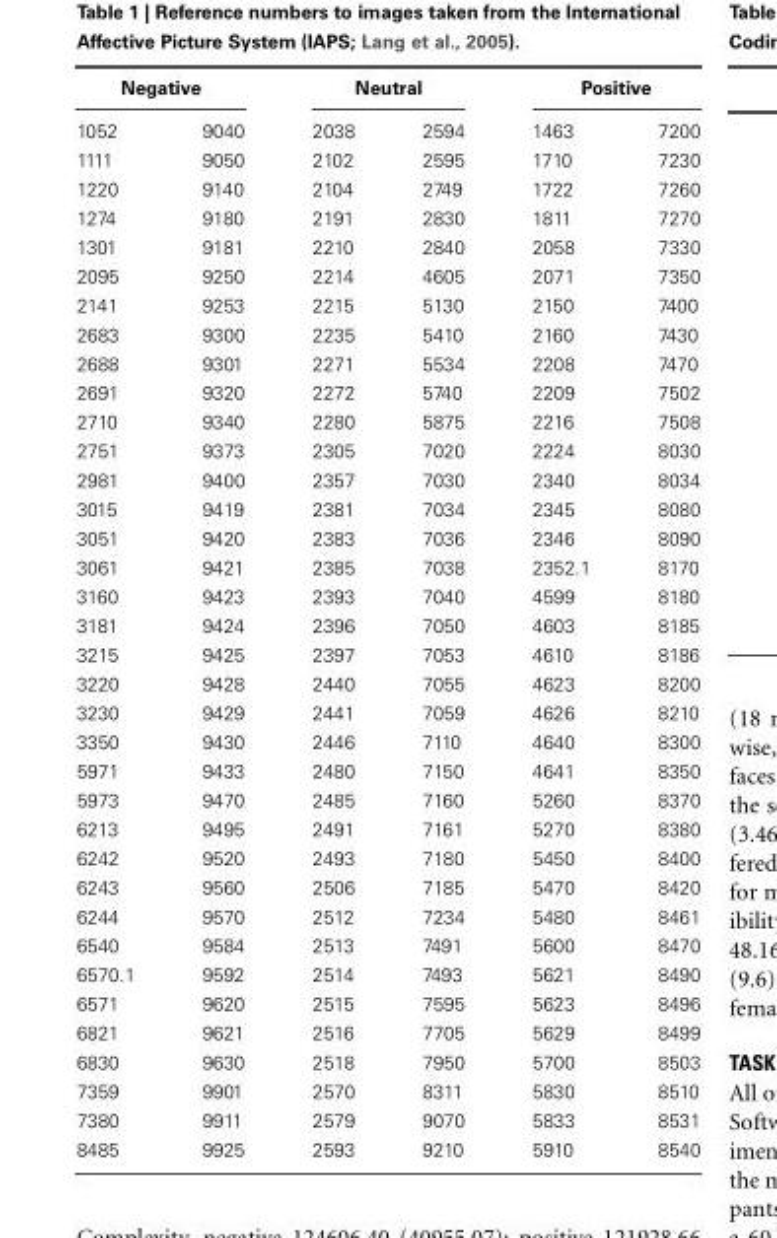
<table><thead><tr><td colspan="2">Negative</td><td colspan="2">Neutral</td><td colspan="2">Positive</td></tr><tr><td>1052</td><td>9040</td><td>2038</td><td>2594</td><td>1463</td><td>7200</td></tr></thead><tbody><tr><td>1111</td><td>9050</td><td>2102</td><td>2595</td><td>1710</td><td>7230</td></tr><tr><td>1220</td><td>9140</td><td>2104</td><td>2749</td><td>1722</td><td>7260</td></tr><tr><td>1274</td><td>9180</td><td>2191</td><td>2830</td><td>1811</td><td>7270</td></tr><tr><td>1301</td><td>9181</td><td>2210</td><td>2840</td><td>2058</td><td>7330</td></tr><tr><td>2095</td><td>9250</td><td>2214</td><td>4605</td><td>2071</td><td>7350</td></tr><tr><td>2141</td><td>9253</td><td>2215</td><td>5130</td><td>2150</td><td>7400</td></tr><tr><td>2683</td><td>9300</td><td>2235</td><td>5410</td><td>2160</td><td>7430</td></tr><tr><td>2688</td><td>9301</td><td>2271</td><td>5534</td><td>2208</td><td>7470</td></tr><tr><td>2691</td><td>9320</td><td>2272</td><td>5740</td><td>2209</td><td>7502</td></tr><tr><td>2710</td><td>9340</td><td>2280</td><td>5875</td><td>2216</td><td>7508</td></tr><tr><td>2751</td><td>9373</td><td>2305</td><td>7020</td><td>2224</td><td>8030</td></tr><tr><td>2981</td><td>9400</td><td>2357</td><td>7030</td><td>2340</td><td>8034</td></tr><tr><td>3015</td><td>9419</td><td>2381</td><td>7034</td><td>2345</td><td>8080</td></tr><tr><td>3051</td><td>9420</td><td>2383</td><td>7036</td><td>2346</td><td>8090</td></tr><tr><td>3061</td><td>9421</td><td>2385</td><td>7038</td><td>2352.1</td><td>8170</td></tr><tr><td>3160</td><td>9423</td><td>2393</td><td>7040</td><td>4599</td><td>8180</td></tr><tr><td>3181</td><td>9424</td><td>2396</td><td>7050</td><td>4603</td><td>8185</td></tr><tr><td>3215</td><td>9425</td><td>2397</td><td>7053</td><td>4610</td><td>8186</td></tr><tr><td>3220</td><td>9428</td><td>2440</td><td>7055</td><td>4623</td><td>8200</td></tr><tr><td>3230</td><td>9429</td><td>2441</td><td>7059</td><td>4626</td><td>8210</td></tr><tr><td>3350</td><td>9430</td><td>2446</td><td>7110</td><td>4640</td><td>8300</td></tr><tr><td>5971</td><td>9433</td><td>2480</td><td>7150</td><td>4641</td><td>8350</td></tr><tr><td>5973</td><td>9470</td><td>2485</td><td>7160</td><td>5260</td><td>8370</td></tr><tr><td>6213</td><td>9495</td><td>2491</td><td>7161</td><td>5270</td><td>8380</td></tr><tr><td>6242</td><td>9520</td><td>2493</td><td>7180</td><td>5450</td><td>8400</td></tr><tr><td>6243</td><td>9560</td><td>2506</td><td>7185</td><td>5470</td><td>8420</td></tr><tr><td>6244</td><td>9570</td><td>2512</td><td>7234</td><td>5480</td><td>8461</td></tr><tr><td>6540</td><td>9584</td><td>2513</td><td>7491</td><td>5600</td><td>8470</td></tr><tr><td>6570.1</td><td>9592</td><td>2514</td><td>7493</td><td>5621</td><td>8490</td></tr><tr><td>6571</td><td>9620</td><td>2515</td><td>7595</td><td>5623</td><td>8496</td></tr><tr><td>6821</td><td>9621</td><td>2516</td><td>7705</td><td>5629</td><td>8499</td></tr><tr><td>6830</td><td>9630</td><td>2518</td><td>7950</td><td>5700</td><td>8503</td></tr><tr><td>7359</td><td>9901</td><td>2570</td><td>8311</td><td>5830</td><td>8510</td></tr><tr><td>7380</td><td>9911</td><td>2579</td><td>9070</td><td>5833</td><td>8531</td></tr><tr><td>8485</td><td>9925</td><td>2593</td><td>9210</td><td>5910</td><td>8540</td></tr></tbody></table>